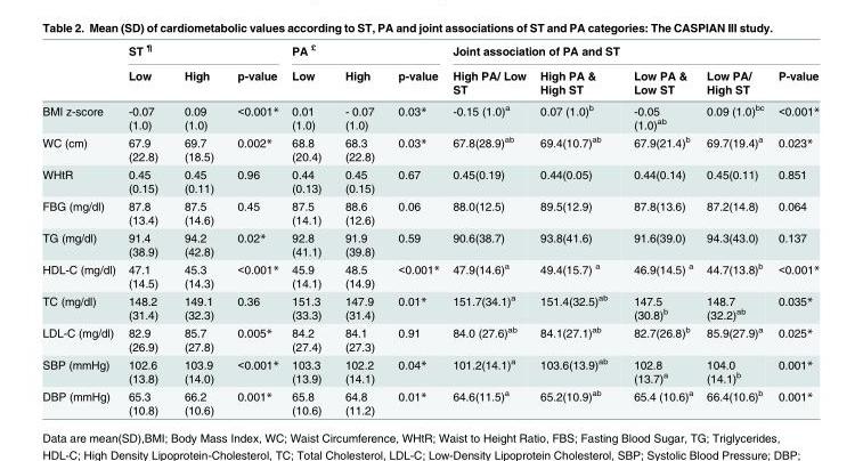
<table><thead><tr><td rowspan="2"></td><td colspan="3">ST <sup>¶</sup></td><td colspan="3">PA <sup>£</sup></td><td colspan="5">Joint association of PA and ST</td></tr><tr><td>Low</td><td>High</td><td>p-value</td><td>Low</td><td>High</td><td>p-value</td><td>High PA/ Low ST</td><td>High PA &amp; High ST</td><td>Low PA &amp; Low ST</td><td>Low PA/ High ST</td><td>P-value</td></tr></thead><tbody><tr><td>BMI z-score</td><td>-0.07 (1.0)</td><td>0.09 (1.0)</td><td>&lt;0.001*</td><td>0.01 (1.0)</td><td>- 0.07 (1.0)</td><td>0.03*</td><td>-0.15 (1.0)<sup>a</sup></td><td>0.07 (1.0)<sup>b</sup></td><td>-0.05 (1.0)<sup>ab</sup></td><td>0.09 (1.0)<sup>bc</sup></td><td>&lt;0.001*</td></tr><tr><td>WC (cm)</td><td>67.9 (22.8)</td><td>69.7 (18.5)</td><td>0.002*</td><td>68.8 (20.4)</td><td>68.3 (22.8)</td><td>0.03*</td><td>67.8(28.9)<sup>ab</sup></td><td>69.4(10.7)<sup>ab</sup></td><td>67.9(21.4)<sup>b</sup></td><td>69.7(19.4)<sup>a</sup></td><td>0.023*</td></tr><tr><td>WHtR</td><td>0.45 (0.15)</td><td>0.45 (0.11)</td><td>0.96</td><td>0.44 (0.13)</td><td>0.45 (0.15)</td><td>0.67</td><td>0.45(0.19)</td><td>0.44(0.05)</td><td>0.44(0.14)</td><td>0.45(0.11)</td><td>0.851</td></tr><tr><td>FBG (mg/dl)</td><td>87.8 (13.4)</td><td>87.5 (14.6)</td><td>0.45</td><td>87.5 (14.1)</td><td>88.6 (12.6)</td><td>0.06</td><td>88.0(12.5)</td><td>89.5(12.9)</td><td>87.8(13.6)</td><td>87.2(14.8)</td><td>0.064</td></tr><tr><td>TG (mg/dl)</td><td>91.4 (38.9)</td><td>94.2 (42.8)</td><td>0.02*</td><td>92.8 (41.1)</td><td>91.9 (39.8)</td><td>0.59</td><td>90.6(38.7)</td><td>93.8(41.6)</td><td>91.6(39.0)</td><td>94.3(43.0)</td><td>0.137</td></tr><tr><td>HDL-C (mg/dl)</td><td>47.1 (14.5)</td><td>45.3 (14.3)</td><td>&lt;0.001*</td><td>45.9 (14.1)</td><td>48.5 (14.9)</td><td>&lt;0.001*</td><td>47.9(14.6)<sup>a</sup></td><td>49.4(15.7) <sup>a</sup></td><td>46.9(14.5) <sup>a</sup></td><td>44.7(13.8)<sup>b</sup></td><td>&lt;0.001*</td></tr><tr><td>TC (mg/dl)</td><td>148.2 (31.4)</td><td>149.1 (32.3)</td><td>0.36</td><td>151.3 (33.3)</td><td>147.9 (31.4)</td><td>0.01*</td><td>151.7(34.1)<sup>a</sup></td><td>151.4(32.5)<sup>ab</sup></td><td>147.5 (30.8)<sup>b</sup></td><td>148.7 (32.2)<sup>ab</sup></td><td>0.035*</td></tr><tr><td>LDL-C (mg/dl)</td><td>82.9 (26.9)</td><td>85.7 (27.8)</td><td>0.005*</td><td>84.2 (27.4)</td><td>84.1 (27.3)</td><td>0.91</td><td>84.0 (27.6)<sup>ab</sup></td><td>84.1(27.1)<sup>ab</sup></td><td>82.7(26.8)<sup>b</sup></td><td>85.9(27.9)<sup>a</sup></td><td>0.025*</td></tr><tr><td>SBP (mmHg)</td><td>102.6 (13.8)</td><td>103.9 (14.0)</td><td>&lt;0.001*</td><td>103.3 (13.9)</td><td>102.2 (14.1)</td><td>0.04*</td><td>101.2(14.1)<sup>a</sup></td><td>103.6(13.9)<sup>ab</sup></td><td>102.8 (13.7)<sup>a</sup></td><td>104.0 (14.1)<sup>b</sup></td><td>0.001*</td></tr><tr><td>DBP (mmHg)</td><td>65.3 (10.8)</td><td>66.2 (10.6)</td><td>0.001*</td><td>65.8 (10.6)</td><td>64.8 (11.2)</td><td>0.01*</td><td>64.6(11.5)<sup>a</sup></td><td>65.2(10.9)<sup>ab</sup></td><td>65.4 (10.6)<sup>a</sup></td><td>66.4(10.6)<sup>b</sup></td><td>0.001*</td></tr></tbody></table>